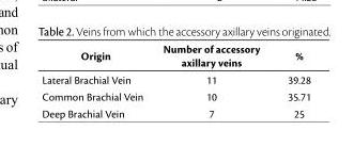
<table><thead><tr><td>Origin</td><td>Number of accessory axillary veins</td><td>%</td></tr></thead><tbody><tr><td>Lateral Brachial Vein</td><td>11</td><td>39.28</td></tr><tr><td>Common Brachial Vein</td><td>10</td><td>35.71</td></tr><tr><td>Deep Brachial Vein</td><td>7</td><td>25</td></tr></tbody></table>